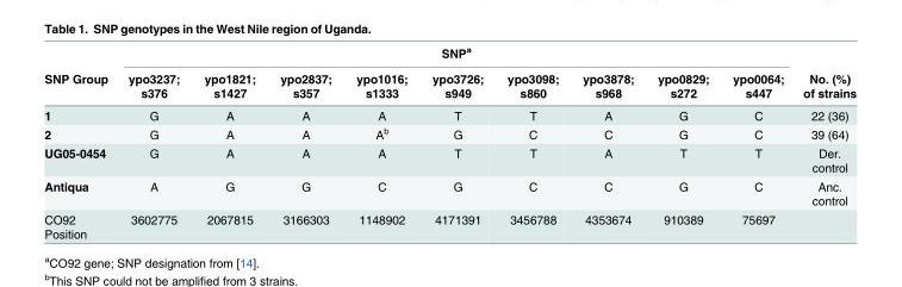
<table><thead><tr><td rowspan="2">SNP Group</td><td colspan="9">SNP<sup>a</sup></td><td rowspan="2">No. (%) of strains</td></tr><tr><td>ypo3237; s376</td><td>ypo1821; s1427</td><td>ypo2837; s357</td><td>ypo1016; s1333</td><td>ypo3726; s949</td><td>ypo3098; s860</td><td>ypo3878; s968</td><td>ypo0829; s272</td><td>ypo0064; s447</td></tr></thead><tbody><tr><td>1</td><td>G</td><td>A</td><td>A</td><td>A</td><td>T</td><td>T</td><td>A</td><td>G</td><td>C</td><td>22 (36)</td></tr><tr><td>2</td><td>G</td><td>A</td><td>A</td><td>A<sup>b</sup></td><td>G</td><td>C</td><td>C</td><td>G</td><td>C</td><td>39 (64)</td></tr><tr><td>UG05-0454</td><td>G</td><td>A</td><td>A</td><td>A</td><td>T</td><td>T</td><td>A</td><td>T</td><td>T</td><td>Der. control</td></tr><tr><td>Antiqua</td><td>A</td><td>G</td><td>G</td><td>C</td><td>G</td><td>C</td><td>C</td><td>G</td><td>C</td><td>Anc. control</td></tr><tr><td>CO92 Position</td><td>3602775</td><td>2067815</td><td>3166303</td><td>1148902</td><td>4171391</td><td>3456788</td><td>4353674</td><td>910389</td><td>75697</td><td></td></tr></tbody></table>